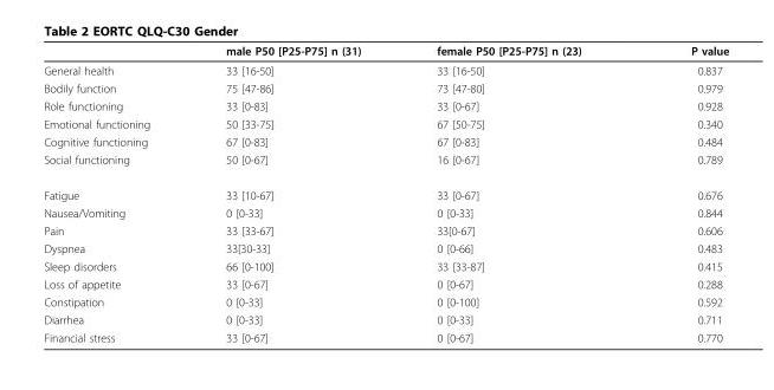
<table><thead><tr><td></td><td>male P50 [P25-P75] n (31)</td><td>female P50 [P25-P75] n (23)</td><td>P value</td></tr></thead><tbody><tr><td>General health</td><td>33 [16-50]</td><td>33 [16-50]</td><td>0.837</td></tr><tr><td>Bodily function</td><td>75 [47-86]</td><td>73 [47-80]</td><td>0.979</td></tr><tr><td>Role functioning</td><td>33 [0-83]</td><td>33 [0-67]</td><td>0.928</td></tr><tr><td>Emotional functioning</td><td>50 [33-75]</td><td>67 [50-75]</td><td>0.340</td></tr><tr><td>Cognitive functioning</td><td>67 [0-83]</td><td>67 [0-83]</td><td>0.484</td></tr><tr><td>Social functioning</td><td>50 [0-67]</td><td>16 [0-67]</td><td>0.789</td></tr><tr><td>Fatigue</td><td>33 [10-67]</td><td>33 [0-67]</td><td>0.676</td></tr><tr><td>Nausea/Vomiting</td><td>0 [0-33]</td><td>0 [0-33]</td><td>0.844</td></tr><tr><td>Pain</td><td>33 [33-67]</td><td>33[0-67]</td><td>0.606</td></tr><tr><td>Dyspnea</td><td>33[30-33]</td><td>0 [0-66]</td><td>0.483</td></tr><tr><td>Sleep disorders</td><td>66 [0-100]</td><td>33 [33-87]</td><td>0.415</td></tr><tr><td>Loss of appetite</td><td>33 [0-67]</td><td>0 [0-67]</td><td>0.288</td></tr><tr><td>Constipation</td><td>0 [0-33]</td><td>0 [0-100]</td><td>0.592</td></tr><tr><td>Diarrhea</td><td>0 [0-33]</td><td>0 [0-33]</td><td>0.711</td></tr><tr><td>Financial stress</td><td>33 [0-67]</td><td>0 [0-67]</td><td>0.770</td></tr></tbody></table>